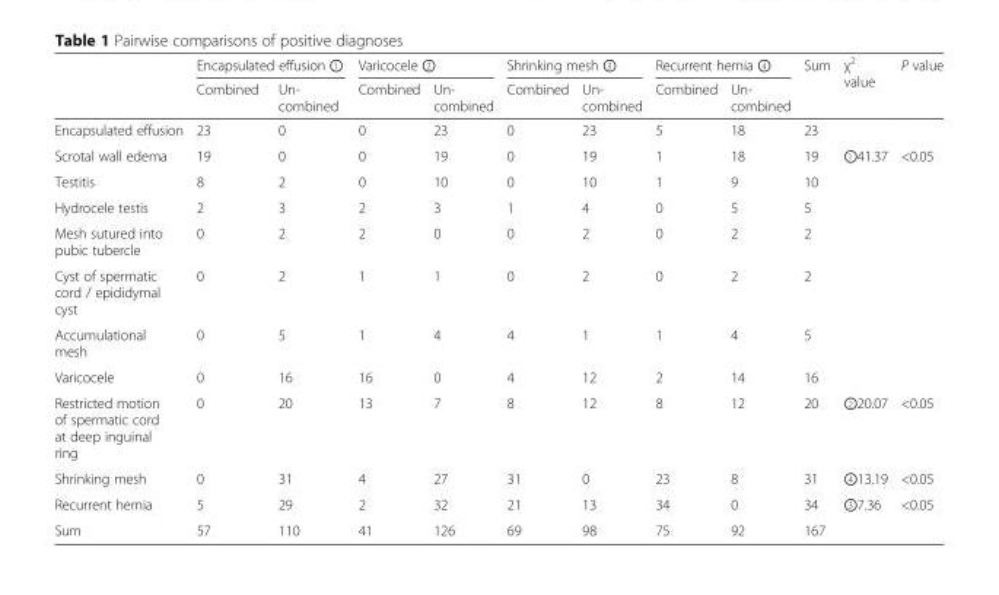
<table><thead><tr><td rowspan="2"></td><td colspan="2">Encapsulated effusion ①</td><td colspan="2">Varicocele ②</td><td colspan="2">Shrinking mesh ③</td><td colspan="2">Recurrent hernia ④</td><td rowspan="2">Sum</td><td rowspan="2">χ<sup>2</sup> value</td><td rowspan="2">P value</td></tr><tr><td>Combined</td><td>Un- combined</td><td>Combined</td><td>Un- combined</td><td>Combined</td><td>Un- combined</td><td>Combined</td><td>Un- combined</td></tr></thead><tbody><tr><td>Encapsulated effusion</td><td>23</td><td>0</td><td>0</td><td>23</td><td>0</td><td>23</td><td>5</td><td>18</td><td>23</td><td></td><td></td></tr><tr><td>Scrotal wall edema</td><td>19</td><td>0</td><td>0</td><td>19</td><td>0</td><td>19</td><td>1</td><td>18</td><td>19</td><td>①41.37</td><td>&lt;0.05</td></tr><tr><td>Testitis</td><td>8</td><td>2</td><td>0</td><td>10</td><td>0</td><td>10</td><td>1</td><td>9</td><td>10</td><td></td><td></td></tr><tr><td>Hydrocele testis</td><td>2</td><td>3</td><td>2</td><td>3</td><td>1</td><td>4</td><td>0</td><td>5</td><td>5</td><td></td><td></td></tr><tr><td>Mesh sutured into pubic tubercle</td><td>0</td><td>2</td><td>2</td><td>0</td><td>0</td><td>2</td><td>0</td><td>2</td><td>2</td><td></td><td></td></tr><tr><td>Cyst of spermatic cord / epididymal cyst</td><td>0</td><td>2</td><td>1</td><td>1</td><td>0</td><td>2</td><td>0</td><td>2</td><td>2</td><td></td><td></td></tr><tr><td>Accumulational mesh</td><td>0</td><td>5</td><td>1</td><td>4</td><td>4</td><td>1</td><td>1</td><td>4</td><td>5</td><td></td><td></td></tr><tr><td>Varicocele</td><td>0</td><td>16</td><td>16</td><td>0</td><td>4</td><td>12</td><td>2</td><td>14</td><td>16</td><td></td><td></td></tr><tr><td>Restricted motion of spermatic cord at deep inguinal ring</td><td>0</td><td>20</td><td>13</td><td>7</td><td>8</td><td>12</td><td>8</td><td>12</td><td>20</td><td>②20.07</td><td>&lt;0.05</td></tr><tr><td>Shrinking mesh</td><td>0</td><td>31</td><td>4</td><td>27</td><td>31</td><td>0</td><td>23</td><td>8</td><td>31</td><td>④13.19</td><td>&lt;0.05</td></tr><tr><td>Recurrent hernia</td><td>5</td><td>29</td><td>2</td><td>32</td><td>21</td><td>13</td><td>34</td><td>0</td><td>34</td><td>③7.36</td><td>&lt;0.05</td></tr><tr><td>Sum</td><td>57</td><td>110</td><td>41</td><td>126</td><td>69</td><td>98</td><td>75</td><td>92</td><td>167</td><td></td><td></td></tr></tbody></table>